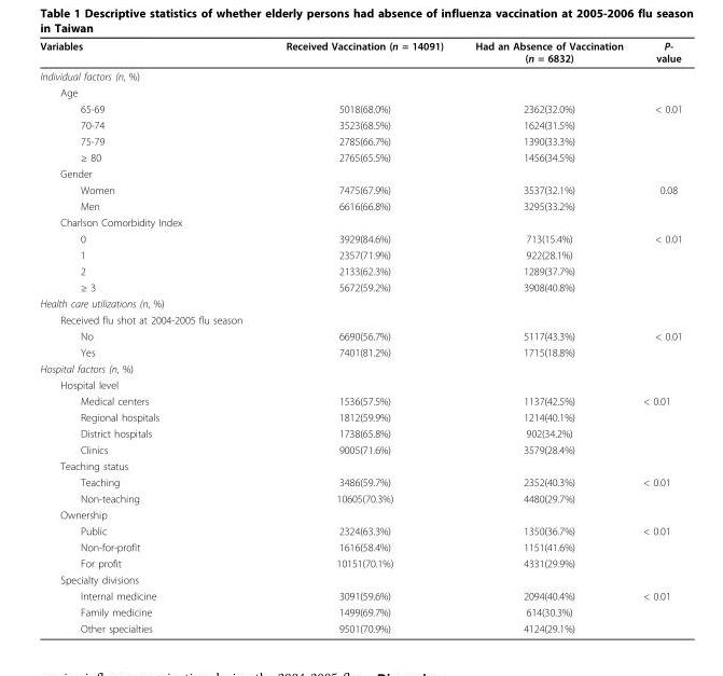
<table><thead><tr><td>Variables</td><td>Received Vaccination (n = 14091)</td><td>Had an Absence of Vaccination (n = 6832)</td><td>P- value</td></tr></thead><tbody><tr><td colspan="4">Individual factors (n, %)</td></tr><tr><td colspan="4">Age</td></tr><tr><td>65-69</td><td>5018(68.0%)</td><td>2362(32.0%)</td><td>&lt; 0.01</td></tr><tr><td>70-74</td><td>3523(68.5%)</td><td>1624(31.5%)</td><td></td></tr><tr><td>75-79</td><td>2785(66.7%)</td><td>1390(33.3%)</td><td></td></tr><tr><td>≥ 80</td><td>2765(65.5%)</td><td>1456(34.5%)</td><td></td></tr><tr><td colspan="4">Gender</td></tr><tr><td>Women</td><td>7475(67.9%)</td><td>3537(32.1%)</td><td>0.08</td></tr><tr><td>Men</td><td>6616(66.8%)</td><td>3295(33.2%)</td><td></td></tr><tr><td colspan="4">Charlson Comorbidity Index</td></tr><tr><td>0</td><td>3929(84.6%)</td><td>713(15.4%)</td><td>&lt; 0.01</td></tr><tr><td>1</td><td>2357(71.9%)</td><td>922(28.1%)</td><td></td></tr><tr><td>2</td><td>2133(62.3%)</td><td>1289(37.7%)</td><td></td></tr><tr><td>≥ 3</td><td>5672(59.2%)</td><td>3908(40.8%)</td><td></td></tr><tr><td colspan="4">Health care utilizations (n, %)</td></tr><tr><td colspan="4">Received flu shot at 2004-2005 flu season</td></tr><tr><td>No</td><td>6690(56.7%)</td><td>5117(43.3%)</td><td>&lt; 0.01</td></tr><tr><td>Yes</td><td>7401(81.2%)</td><td>1715(18.8%)</td><td></td></tr><tr><td colspan="4">Hospital factors (n, %)</td></tr><tr><td colspan="4">Hospital level</td></tr><tr><td>Medical centers</td><td>1536(57.5%)</td><td>1137(42.5%)</td><td>&lt; 0.01</td></tr><tr><td>Regional hospitals</td><td>1812(59.9%)</td><td>1214(40.1%)</td><td></td></tr><tr><td>District hospitals</td><td>1738(65.8%)</td><td>902(34.2%)</td><td></td></tr><tr><td>Clinics</td><td>9005(71.6%)</td><td>3579(28.4%)</td><td></td></tr><tr><td colspan="4">Teaching status</td></tr><tr><td>Teaching</td><td>3486(59.7%)</td><td>2352(40.3%)</td><td>&lt; 0.01</td></tr><tr><td>Non-teaching</td><td>10605(70.3%)</td><td>4480(29.7%)</td><td></td></tr><tr><td colspan="4">Ownership</td></tr><tr><td>Public</td><td>2324(63.3%)</td><td>1350(36.7%)</td><td>&lt; 0.01</td></tr><tr><td>Non-for-profit</td><td>1616(58.4%)</td><td>1151(41.6%)</td><td></td></tr><tr><td>For profit</td><td>10151(70.1%)</td><td>4331(29.9%)</td><td></td></tr><tr><td colspan="4">Specialty divisions</td></tr><tr><td>Internal medicine</td><td>3091(59.6%)</td><td>2094(40.4%)</td><td>&lt; 0.01</td></tr><tr><td>Family medicine</td><td>1499(69.7%)</td><td>614(30.3%)</td><td></td></tr><tr><td>Other specialties</td><td>9501(70.9%)</td><td>4124(29.1%)</td><td></td></tr></tbody></table>